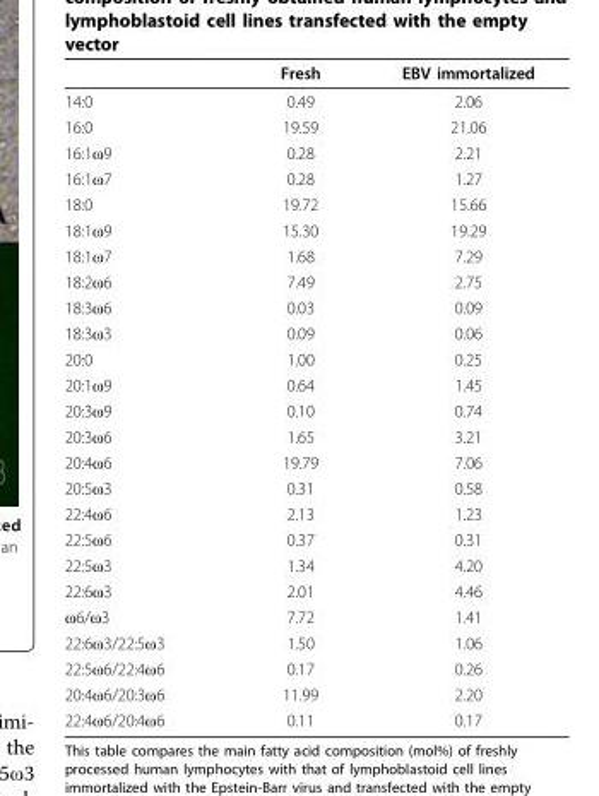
<table><thead><tr><td></td><td>Fresh</td><td>EBV immortalized</td></tr></thead><tbody><tr><td>14:0</td><td>0.49</td><td>2.06</td></tr><tr><td>16:0</td><td>19.59</td><td>21.06</td></tr><tr><td>16:1ω9</td><td>0.28</td><td>2.21</td></tr><tr><td>16:1ω7</td><td>0.28</td><td>1.27</td></tr><tr><td>18:0</td><td>19.72</td><td>15.66</td></tr><tr><td>18:1ω9</td><td>15.30</td><td>19.29</td></tr><tr><td>18:1ω7</td><td>1.68</td><td>7.29</td></tr><tr><td>18:2ω6</td><td>7.49</td><td>2.75</td></tr><tr><td>18:3ω6</td><td>0.03</td><td>0.09</td></tr><tr><td>18:3ω3</td><td>0.09</td><td>0.06</td></tr><tr><td>20:0</td><td>1.00</td><td>0.25</td></tr><tr><td>20:1ω9</td><td>0.64</td><td>1.45</td></tr><tr><td>20:3ω9</td><td>0.10</td><td>0.74</td></tr><tr><td>20:3ω6</td><td>1.65</td><td>3.21</td></tr><tr><td>20:4ω6</td><td>19.79</td><td>7.06</td></tr><tr><td>20:5ω3</td><td>0.31</td><td>0.58</td></tr><tr><td>22:4ω6</td><td>2.13</td><td>1.23</td></tr><tr><td>22:5ω6</td><td>0.37</td><td>0.31</td></tr><tr><td>22:5ω3</td><td>1.34</td><td>4.20</td></tr><tr><td>22:6ω3</td><td>2.01</td><td>4.46</td></tr><tr><td>ω6/ω3</td><td>7.72</td><td>1.41</td></tr><tr><td>22:6ω3/22:5ω3</td><td>1.50</td><td>1.06</td></tr><tr><td>22:5ω6/22:4ω6</td><td>0.17</td><td>0.26</td></tr><tr><td>20:4ω6/20:3ω6</td><td>11.99</td><td>2.20</td></tr><tr><td>22:4ω6/20:4ω6</td><td>0.11</td><td>0.17</td></tr></tbody></table>